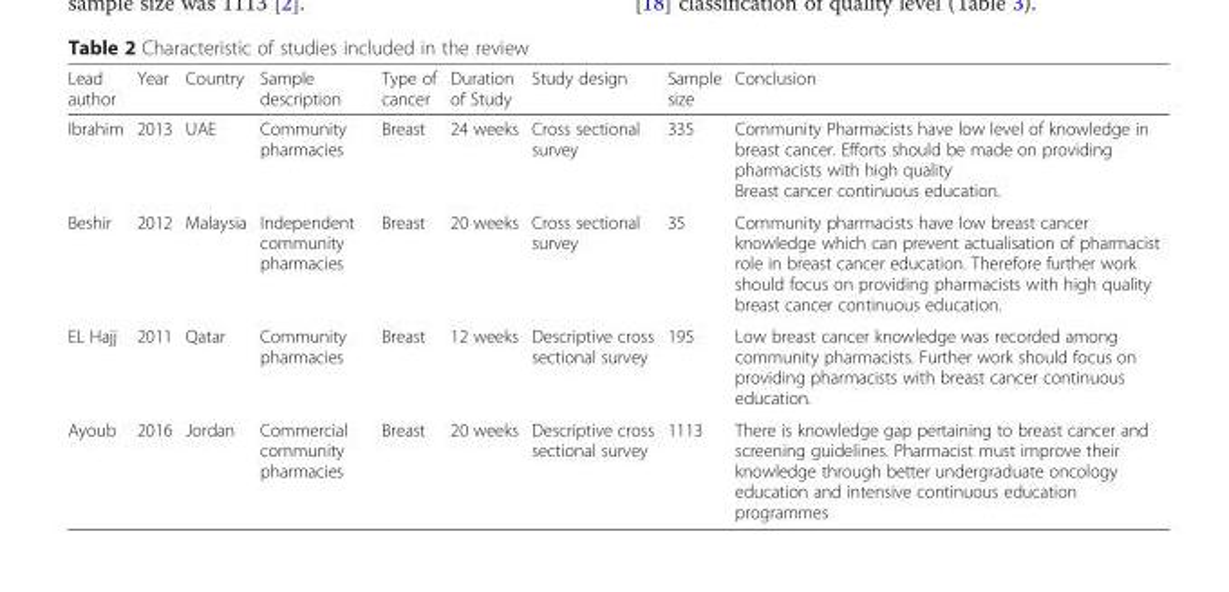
<table><thead><tr><td>Lead author</td><td>Year</td><td>Country</td><td>Sample description</td><td>Type of cancer</td><td>Duration of Study</td><td>Study design</td><td>Sample size</td><td>Conclusion</td></tr></thead><tbody><tr><td>Ibrahim</td><td>2013</td><td>UAE</td><td>Community pharmacies</td><td>Breast</td><td>24 weeks</td><td>Cross sectional survey</td><td>335</td><td>Community Pharmacists have low level of knowledge in breast cancer. Efforts should be made on providing pharmacists with high quality Breast cancer continuous education.</td></tr><tr><td>Beshir</td><td>2012</td><td>Malaysia</td><td>Independent community pharmacies</td><td>Breast</td><td>20 weeks</td><td>Cross sectional survey</td><td>35</td><td>Community pharmacists have low breast cancer knowledge which can prevent actualisation of pharmacist role in breast cancer education. Therefore further work should focus on providing pharmacists with high quality breast cancer continuous education.</td></tr><tr><td>EL Hajj</td><td>2011</td><td>Qatar</td><td>Community pharmacies</td><td>Breast</td><td>12 weeks</td><td>Descriptive cross sectional survey</td><td>195</td><td>Low breast cancer knowledge was recorded among community pharmacists. Further work should focus on providing pharmacists with breast cancer continuous education.</td></tr><tr><td>Ayoub</td><td>2016</td><td>Jordan</td><td>Commercial community pharmacies</td><td>Breast</td><td>20 weeks</td><td>Descriptive cross sectional survey</td><td>1113</td><td>There is knowledge gap pertaining to breast cancer and screening guidelines. Pharmacist must improve their knowledge through better undergraduate oncology education and intensive continuous education programmes</td></tr></tbody></table>